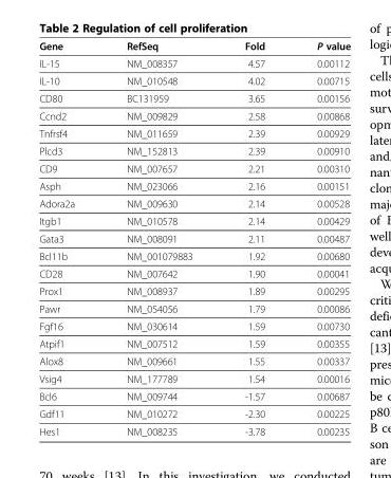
<table><thead><tr><td>Gene</td><td>RefSeq</td><td>Fold</td><td>P value</td></tr></thead><tbody><tr><td>IL-15</td><td>NM_008357</td><td>4.57</td><td>0.00112</td></tr><tr><td>IL-10</td><td>NM_010548</td><td>4.02</td><td>0.00715</td></tr><tr><td>CD80</td><td>BC131959</td><td>3.65</td><td>0.00156</td></tr><tr><td>Ccnd2</td><td>NM_009829</td><td>2.58</td><td>0.00868</td></tr><tr><td>Tnfrsf4</td><td>NM_011659</td><td>2.39</td><td>0.00929</td></tr><tr><td>Plcd3</td><td>NM_152813</td><td>2.39</td><td>0.00910</td></tr><tr><td>CD9</td><td>NM_007657</td><td>2.21</td><td>0.00310</td></tr><tr><td>Asph</td><td>NM_023066</td><td>2.16</td><td>0.00151</td></tr><tr><td>Adora2a</td><td>NM_009630</td><td>2.14</td><td>0.00528</td></tr><tr><td>Itgb1</td><td>NM_010578</td><td>2.14</td><td>0.00429</td></tr><tr><td>Gata3</td><td>NM_008091</td><td>2.11</td><td>0.00487</td></tr><tr><td>Bcl11b</td><td>NM_001079883</td><td>1.92</td><td>0.00680</td></tr><tr><td>CD28</td><td>NM_007642</td><td>1.90</td><td>0.00041</td></tr><tr><td>Prox1</td><td>NM_008937</td><td>1.89</td><td>0.00295</td></tr><tr><td>Pawr</td><td>NM_054056</td><td>1.79</td><td>0.00086</td></tr><tr><td>Fgf16</td><td>NM_030614</td><td>1.59</td><td>0.00730</td></tr><tr><td>Atpif1</td><td>NM_007512</td><td>1.59</td><td>0.00355</td></tr><tr><td>Alox8</td><td>NM_009661</td><td>1.55</td><td>0.00337</td></tr><tr><td>Vsig4</td><td>NM_177789</td><td>1.54</td><td>0.00016</td></tr><tr><td>Bcl6</td><td>NM_009744</td><td>-1.57</td><td>0.00687</td></tr><tr><td>Gdf11</td><td>NM_010272</td><td>-2.30</td><td>0.00225</td></tr><tr><td>Hes1</td><td>NM_008235</td><td>-3.78</td><td>0.00235</td></tr></tbody></table>